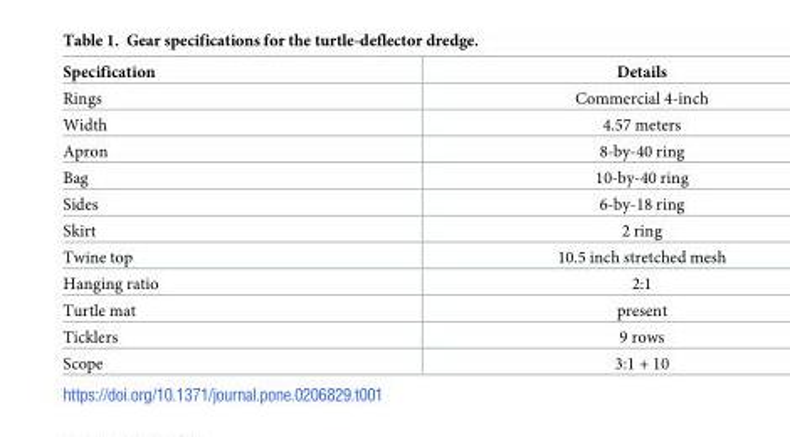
<table><thead><tr><td>Specification</td><td>Details</td></tr></thead><tbody><tr><td>Rings</td><td>Commercial 4-inch</td></tr><tr><td>Width</td><td>4.57 meters</td></tr><tr><td>Apron</td><td>8-by-40 ring</td></tr><tr><td>Bag</td><td>10-by-40 ring</td></tr><tr><td>Sides</td><td>6-by-18 ring</td></tr><tr><td>Skirt</td><td>2 ring</td></tr><tr><td>Twine top</td><td>10.5 inch stretched mesh</td></tr><tr><td>Hanging ratio</td><td>2:1</td></tr><tr><td>Turtle mat</td><td>present</td></tr><tr><td>Ticklers</td><td>9 rows</td></tr><tr><td>Scope</td><td>3:1 + 10</td></tr></tbody></table>